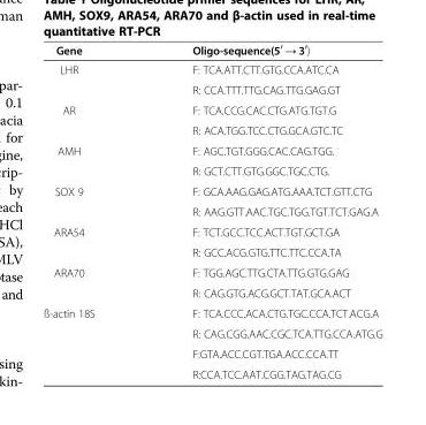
<table><thead><tr><td>Gene</td><td>Oligo-sequence(5<sup>′</sup> → 3<sup>′</sup>)</td></tr></thead><tbody><tr><td rowspan="2">LHR</td><td>F: TCA.ATT.CTT.GTG.CCA.ATC.CA</td></tr><tr><td>R: CCA.TTT.TTG.CAG.TTG.GAG.GT</td></tr><tr><td rowspan="2">AR</td><td>F: TCA.CCG.CAC.CTG.ATG.TGT.G</td></tr><tr><td>R: ACA.TGG.TCC.CTG.GCA.GTC.TC</td></tr><tr><td rowspan="2">AMH</td><td>F: AGC.TGT.GGG.CAC.CAG.TGG.</td></tr><tr><td>R: GCT.CTT.GTG.GGC.TGC.CTG.</td></tr><tr><td rowspan="2">SOX 9</td><td>F: GCA.AAG.GAG.ATG.AAA.TCT.GTT.CTG</td></tr><tr><td>R: AAG.GTT.AAC.TGC.TGG.TGT.TCT.GAG.A</td></tr><tr><td rowspan="2">ARA54</td><td>F: TCT.GCC.TCC.ACT.TGT.GCT.GA</td></tr><tr><td>R: GCC.ACG.GTG.TTC.TTC.CCA.TA</td></tr><tr><td rowspan="2">ARA70</td><td>F: TGG.AGC.TTG.CTA.TTG.GTG.GAG</td></tr><tr><td>R: CAG.GTG.ACG.GCT.TAT.GCA.ACT</td></tr><tr><td rowspan="4">ß-actin 18S</td><td>F: TCA.CCC.ACA.CTG.TGC.CCA.TCT.ACG.A</td></tr><tr><td>R: CAG.CGG.AAC.CGC.TCA.TTG.CCA.ATG.G</td></tr><tr><td>F:GTA.ACC.CGT.TGA.ACC.CCA.TT</td></tr><tr><td>R:CCA.TCC.AAT.CGG.TAG.TAG.CG</td></tr></tbody></table>